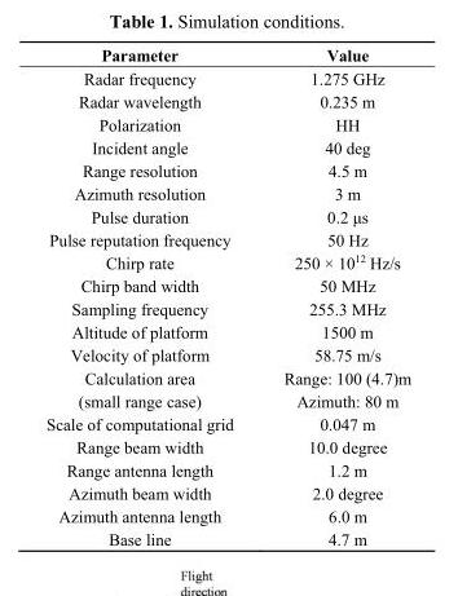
<table><thead><tr><td>Parameter</td><td>Value</td></tr></thead><tbody><tr><td>Radar frequency</td><td>1.275 GHz</td></tr><tr><td>Radar wavelength</td><td>0.235 m</td></tr><tr><td>Polarization</td><td>HH</td></tr><tr><td>Incident angle</td><td>40 deg</td></tr><tr><td>Range resolution</td><td>4.5 m</td></tr><tr><td>Azimuth resolution</td><td>3 m</td></tr><tr><td>Pulse duration</td><td>0.2 μs</td></tr><tr><td>Pulse reputation frequency</td><td>50 Hz</td></tr><tr><td>Chirp rate</td><td>250 × 10<sup>12</sup> Hz/s</td></tr><tr><td>Chirp band width</td><td>50 MHz</td></tr><tr><td>Sampling frequency</td><td>255.3 MHz</td></tr><tr><td>Altitude of platform</td><td>1500 m</td></tr><tr><td>Velocity of platform</td><td>58.75 m/s</td></tr><tr><td>Calculation area (small range case)</td><td>Range: 100 (4.7)m Azimuth: 80 m</td></tr><tr><td>Scale of computational grid</td><td>0.047 m</td></tr><tr><td>Range beam width</td><td>10.0 degree</td></tr><tr><td>Range antenna length</td><td>1.2 m</td></tr><tr><td>Azimuth beam width</td><td>2.0 degree</td></tr><tr><td>Azimuth antenna length</td><td>6.0 m</td></tr><tr><td>Base line</td><td>4.7 m</td></tr></tbody></table>